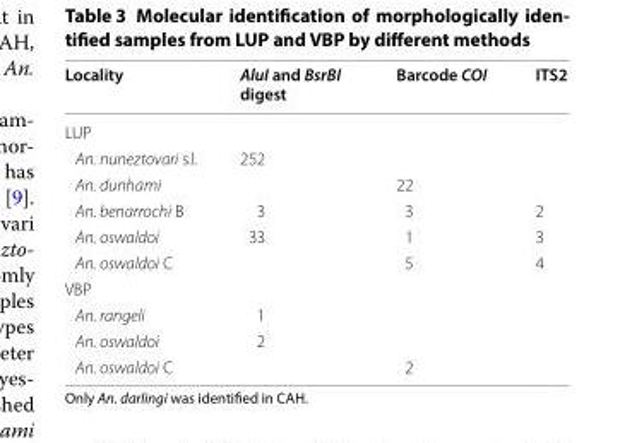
<table><thead><tr><td>Locality</td><td>AluI and BsrBI digest</td><td>Barcode COI</td><td>ITS2</td></tr></thead><tbody><tr><td colspan="4">LUP</td></tr><tr><td>An. nuneztovari s.l.</td><td>252</td><td></td><td></td></tr><tr><td>An. dunhami</td><td></td><td>22</td><td></td></tr><tr><td>An. benarrochi B</td><td>3</td><td>3</td><td>2</td></tr><tr><td>An. oswaldoi</td><td>33</td><td>1</td><td>3</td></tr><tr><td>An. oswaldoi C</td><td></td><td>5</td><td>4</td></tr><tr><td colspan="4">VBP</td></tr><tr><td>An. rangeli</td><td>1</td><td></td><td></td></tr><tr><td>An. oswaldoi</td><td>2</td><td></td><td></td></tr><tr><td>An. oswaldoi C</td><td></td><td>2</td><td></td></tr></tbody></table>